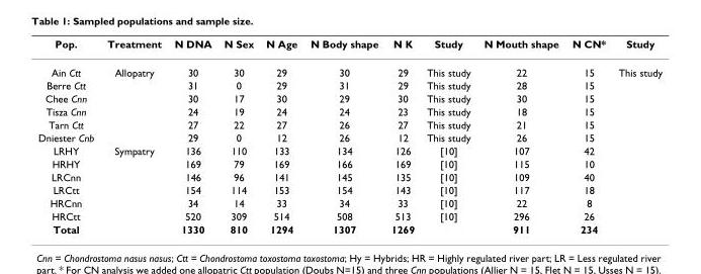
<table><thead><tr><td>Pop.</td><td>Treatment</td><td>N DNA</td><td>N Sex</td><td>N Age</td><td>N Body shape</td><td>N K</td><td>Study</td><td>N Mouth shape</td><td>N CN*</td><td>Study</td></tr></thead><tbody><tr><td>Ain Ctt</td><td>Allopatry</td><td>30</td><td>30</td><td>29</td><td>30</td><td>29</td><td>This study</td><td>22</td><td>15</td><td>This study</td></tr><tr><td>Berre Ctt</td><td></td><td>31</td><td>0</td><td>29</td><td>31</td><td>29</td><td>This study</td><td>28</td><td>15</td><td></td></tr><tr><td>Chee Cnn</td><td></td><td>30</td><td>17</td><td>30</td><td>29</td><td>30</td><td>This study</td><td>30</td><td>15</td><td></td></tr><tr><td>Tisza Cnn</td><td></td><td>24</td><td>19</td><td>24</td><td>24</td><td>23</td><td>This study</td><td>18</td><td>15</td><td></td></tr><tr><td>Tarn Ctt</td><td></td><td>27</td><td>22</td><td>27</td><td>26</td><td>27</td><td>This study</td><td>21</td><td>15</td><td></td></tr><tr><td>Dniester Cnb</td><td></td><td>29</td><td>0</td><td>12</td><td>26</td><td>12</td><td>This study</td><td>26</td><td>15</td><td></td></tr><tr><td>LRHY</td><td>Sympatry</td><td>136</td><td>110</td><td>133</td><td>134</td><td>126</td><td>[10]</td><td>107</td><td>42</td><td></td></tr><tr><td>HRHY</td><td></td><td>169</td><td>79</td><td>169</td><td>166</td><td>169</td><td>[10]</td><td>115</td><td>10</td><td></td></tr><tr><td>LRCnn</td><td></td><td>146</td><td>96</td><td>141</td><td>145</td><td>135</td><td>[10]</td><td>109</td><td>40</td><td></td></tr><tr><td>LRCtt</td><td></td><td>154</td><td>114</td><td>153</td><td>154</td><td>143</td><td>[10]</td><td>117</td><td>18</td><td></td></tr><tr><td>HRCnn</td><td></td><td>34</td><td>14</td><td>33</td><td>34</td><td>33</td><td>[10]</td><td>22</td><td>8</td><td></td></tr><tr><td>HRCtt</td><td></td><td>520</td><td>309</td><td>514</td><td>508</td><td>513</td><td>[10]</td><td>296</td><td>26</td><td></td></tr><tr><td>Total</td><td></td><td>1330</td><td>810</td><td>1294</td><td>1307</td><td>1269</td><td></td><td>911</td><td>234</td><td></td></tr></tbody></table>